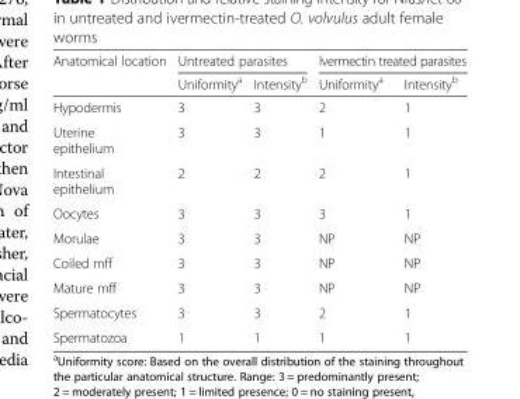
<table><thead><tr><td rowspan="2">Anatomical location</td><td colspan="2">Untreated parasites</td><td colspan="2">Ivermectin treated parasites</td></tr><tr><td>Uniformity<sup>a</sup></td><td>Intensity<sup>b</sup></td><td>Uniformity<sup>a</sup></td><td>Intensity<sup>b</sup></td></tr></thead><tbody><tr><td>Hypodermis</td><td>3</td><td>3</td><td>2</td><td>1</td></tr><tr><td>Uterine epithelium</td><td>3</td><td>3</td><td>1</td><td>1</td></tr><tr><td>Intestinal epithelium</td><td>2</td><td>2</td><td>2</td><td>1</td></tr><tr><td>Oocytes</td><td>3</td><td>3</td><td>3</td><td>1</td></tr><tr><td>Morulae</td><td>3</td><td>3</td><td>NP</td><td>NP</td></tr><tr><td>Coiled mff</td><td>3</td><td>3</td><td>NP</td><td>NP</td></tr><tr><td>Mature mff</td><td>3</td><td>3</td><td>NP</td><td>NP</td></tr><tr><td>Spermatocytes</td><td>3</td><td>3</td><td>2</td><td>1</td></tr><tr><td>Spermatozoa</td><td>1</td><td>1</td><td>1</td><td>1</td></tr></tbody></table>